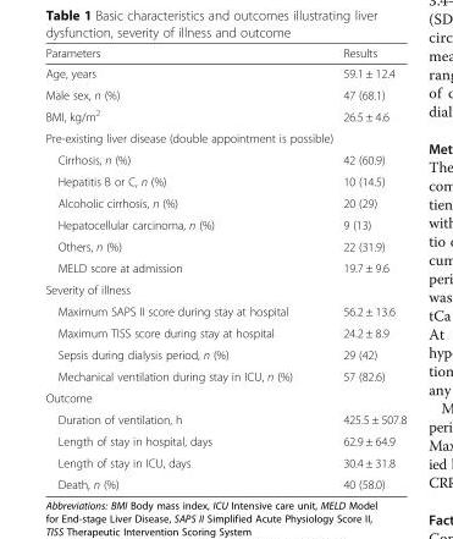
<table><thead><tr><td>Parameters</td><td>Results</td></tr></thead><tbody><tr><td>Age, years</td><td>59.1 ± 12.4</td></tr><tr><td>Male sex, n (%)</td><td>47 (68.1)</td></tr><tr><td>BMI, kg/m<sup>2</sup></td><td>26.5 ± 4.6</td></tr><tr><td colspan="2">Pre-existing liver disease (double appointment is possible)</td></tr><tr><td>Cirrhosis, n (%)</td><td>42 (60.9)</td></tr><tr><td>Hepatitis B or C, n (%)</td><td>10 (14.5)</td></tr><tr><td>Alcoholic cirrhosis, n (%)</td><td>20 (29)</td></tr><tr><td>Hepatocellular carcinoma, n (%)</td><td>9 (13)</td></tr><tr><td>Others, n (%)</td><td>22 (31.9)</td></tr><tr><td>MELD score at admission</td><td>19.7 ± 9.6</td></tr><tr><td colspan="2">Severity of illness</td></tr><tr><td>Maximum SAPS II score during stay at hospital</td><td>56.2 ± 13.6</td></tr><tr><td>Maximum TISS score during stay at hospital</td><td>24.2 ± 8.9</td></tr><tr><td>Sepsis during dialysis period, n (%)</td><td>29 (42)</td></tr><tr><td>Mechanical ventilation during stay in ICU, n (%)</td><td>57 (82.6)</td></tr><tr><td colspan="2">Outcome</td></tr><tr><td>Duration of ventilation, h</td><td>425.5 ± 507.8</td></tr><tr><td>Length of stay in hospital, days</td><td>62.9 ± 64.9</td></tr><tr><td>Length of stay in ICU, days</td><td>30.4 ± 31.8</td></tr><tr><td>Death, n (%)</td><td>40 (58.0)</td></tr></tbody></table>